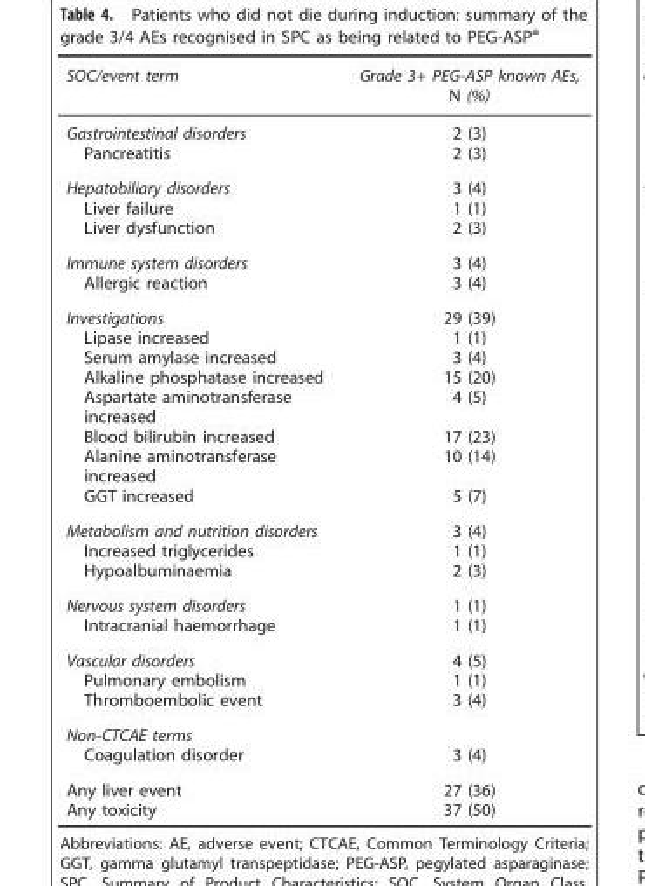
<table><thead><tr><td>SOC/event term</td><td>Grade 3+ PEG-ASP known AEs, N (%)</td></tr></thead><tbody><tr><td>Gastrointestinal disorders</td><td>2 (3)</td></tr><tr><td>Pancreatitis</td><td>2 (3)</td></tr><tr><td>Hepatobiliary disorders</td><td>3 (4)</td></tr><tr><td>Liver failure</td><td>1 (1)</td></tr><tr><td>Liver dysfunction</td><td>2 (3)</td></tr><tr><td>Immune system disorders</td><td>3 (4)</td></tr><tr><td>Allergic reaction</td><td>3 (4)</td></tr><tr><td>Investigations</td><td>29 (39)</td></tr><tr><td>Lipase increased</td><td>1 (1)</td></tr><tr><td>Serum amylase increased</td><td>3 (4)</td></tr><tr><td>Alkaline phosphatase increased</td><td>15 (20)</td></tr><tr><td>Aspartate aminotransferase increased</td><td>4 (5)</td></tr><tr><td>Blood bilirubin increased</td><td>17 (23)</td></tr><tr><td>Alanine aminotransferase increased</td><td>10 (14)</td></tr><tr><td>GGT increased</td><td>5 (7)</td></tr><tr><td>Metabolism and nutrition disorders</td><td>3 (4)</td></tr><tr><td>Increased triglycerides</td><td>1 (1)</td></tr><tr><td>Hypoalbuminaemia</td><td>2 (3)</td></tr><tr><td>Nervous system disorders</td><td>1 (1)</td></tr><tr><td>Intracranial haemorrhage</td><td>1 (1)</td></tr><tr><td>Vascular disorders</td><td>4 (5)</td></tr><tr><td>Pulmonary embolism</td><td>1 (1)</td></tr><tr><td>Thromboembolic event</td><td>3 (4)</td></tr><tr><td colspan="2">Non-CTCAE terms</td></tr><tr><td>Coagulation disorder</td><td>3 (4)</td></tr><tr><td>Any liver event</td><td>27 (36)</td></tr><tr><td>Any toxicity</td><td>37 (50)</td></tr></tbody></table>